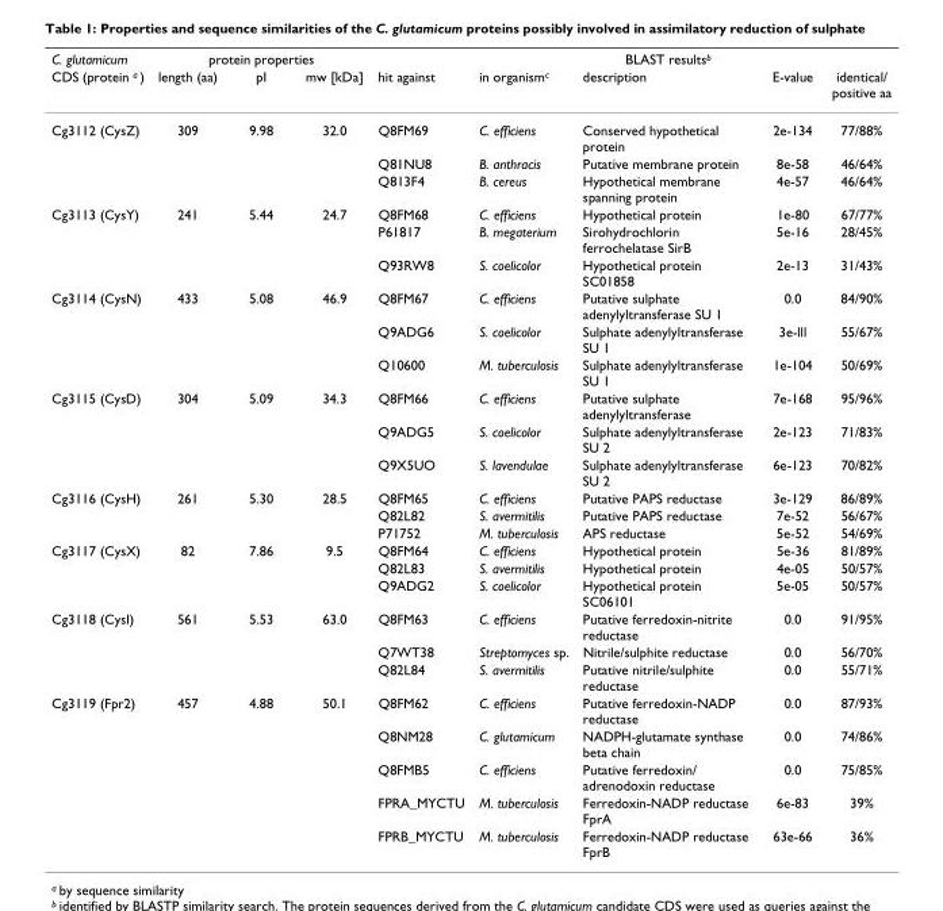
<table><thead><tr><td rowspan="2">C. glutamicum CDS (protein a )</td><td colspan="3">protein properties</td><td rowspan="2">hit against</td><td rowspan="2">in organism<sup>c</sup></td><td rowspan="2">BLAST results<sup>b</sup> description</td><td rowspan="2">E-value</td><td rowspan="2">identical/ positive aa</td></tr><tr><td>length (aa)</td><td>pI</td><td>mw [kDa]</td></tr></thead><tbody><tr><td rowspan="3">Cg3112 (CysZ)</td><td>309</td><td>9.98</td><td>32.0</td><td>Q8FM69</td><td>C. efficiens</td><td>Conserved hypothetical protein</td><td>2e-134</td><td>77/88%</td></tr><tr><td></td><td></td><td></td><td>Q81NU8</td><td>B. anthracis</td><td>Putative membrane protein</td><td>8e-58</td><td>46/64%</td></tr><tr><td></td><td></td><td></td><td>Q813F4</td><td>B. cereus</td><td>Hypothetical membrane spanning protein</td><td>4e-57</td><td>46/64%</td></tr><tr><td rowspan="3">Cg3113 (CysY)</td><td>241</td><td>5.44</td><td>24.7</td><td>Q8FM68</td><td>C. efficiens</td><td>Hypothetical protein</td><td>1e-80</td><td>67/77%</td></tr><tr><td></td><td></td><td></td><td>P61817</td><td>B. megaterium</td><td>Sirohydrochlorin ferrochelatase SirB</td><td>5e-16</td><td>28/45%</td></tr><tr><td></td><td></td><td></td><td>Q93RW8</td><td>S. coelicolor</td><td>Hypothetical protein SC01858</td><td>2e-13</td><td>31/43%</td></tr><tr><td rowspan="3">Cg3114 (CysN)</td><td>433</td><td>5.08</td><td>46.9</td><td>Q8FM67</td><td>C. efficiens</td><td>Putative sulphate adenylyltransferase SU 1</td><td>0.0</td><td>84/90%</td></tr><tr><td></td><td></td><td></td><td>Q9ADG6</td><td>S. coelicolor</td><td>Sulphate adenylyltransferase SU 1</td><td>3e-lll</td><td>55/67%</td></tr><tr><td></td><td></td><td></td><td>Q10600</td><td>M. tuberculosis</td><td>Sulphate adenylyltransferase SU 1</td><td>1e-104</td><td>50/69%</td></tr><tr><td rowspan="3">Cg3115 (CysD)</td><td>304</td><td>5.09</td><td>34.3</td><td>Q8FM66</td><td>C. efficiens</td><td>Putative sulphate adenylyltransferase</td><td>7e-168</td><td>95/96%</td></tr><tr><td></td><td></td><td></td><td>Q9ADG5</td><td>S. coelicolor</td><td>Sulphate adenylyltransferase SU 2</td><td>2e-123</td><td>71/83%</td></tr><tr><td></td><td></td><td></td><td>Q9X5UO</td><td>S. lavendulae</td><td>Sulphate adenylyltransferase SU 2</td><td>6e-123</td><td>70/82%</td></tr><tr><td rowspan="3">Cg3116 (CysH)</td><td>261</td><td>5.30</td><td>28.5</td><td>Q8FM65</td><td>C. efficiens</td><td>Putative PAPS reductase</td><td>3e-129</td><td>86/89%</td></tr><tr><td></td><td></td><td></td><td>Q82L82</td><td>S. avermitilis</td><td>Putative PAPS reductase</td><td>7e-52</td><td>56/67%</td></tr><tr><td></td><td></td><td></td><td>P71752</td><td>M. tuberculosis</td><td>APS reductase</td><td>5e-52</td><td>54/69%</td></tr><tr><td rowspan="3">Cg3117 (CysX)</td><td>82</td><td>7.86</td><td>9.5</td><td>Q8FM64</td><td>C. efficiens</td><td>Hypothetical protein</td><td>5e-36</td><td>81/89%</td></tr><tr><td></td><td></td><td></td><td>Q82L83</td><td>S. avermitilis</td><td>Hypothetical protein</td><td>4e-05</td><td>50/57%</td></tr><tr><td></td><td></td><td></td><td>Q9ADG2</td><td>S. coelicolor</td><td>Hypothetical protein SC06101</td><td>5e-05</td><td>50/57%</td></tr><tr><td rowspan="3">Cg3118 (CysI)</td><td>561</td><td>5.53</td><td>63.0</td><td>Q8FM63</td><td>C. efficiens</td><td>Putative ferredoxin-nitrite reductase</td><td>0.0</td><td>91/95%</td></tr><tr><td></td><td></td><td></td><td>Q7WT38</td><td>Streptomyces sp.</td><td>Nitrile/sulphite reductase</td><td>0.0</td><td>56/70%</td></tr><tr><td></td><td></td><td></td><td>Q82L84</td><td>S. avermitilis</td><td>Putative nitrile/sulphite reductase</td><td>0.0</td><td>55/71%</td></tr><tr><td rowspan="5">Cg3119 (Fpr2)</td><td>457</td><td>4.88</td><td>50.1</td><td>Q8FM62</td><td>C. efficiens</td><td>Putative ferredoxin-NADP reductase</td><td>0.0</td><td>87/93%</td></tr><tr><td></td><td></td><td></td><td>Q8NM28</td><td>C. glutamicum</td><td>NADPH-glutamate synthase beta chain</td><td>0.0</td><td>74/86%</td></tr><tr><td></td><td></td><td></td><td>Q8FMB5</td><td>C. efficiens</td><td>Putative ferredoxin/ adrenodoxin reductase</td><td>0.0</td><td>75/85%</td></tr><tr><td></td><td></td><td></td><td>FPRA_MYCTU</td><td>M. tuberculosis</td><td>Ferredoxin-NADP reductase FprA</td><td>6e-83</td><td>39%</td></tr><tr><td></td><td></td><td></td><td>FPRB_MYCTU</td><td>M. tuberculosis</td><td>Ferredoxin-NADP reductase FprB</td><td>63e-66</td><td>36%</td></tr></tbody></table>